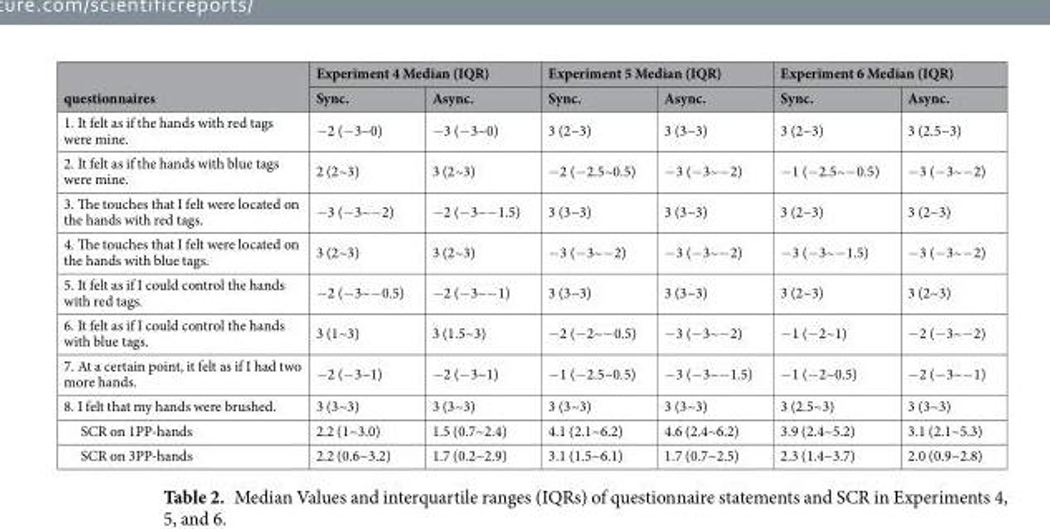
<table><thead><tr><td rowspan="2">questionnaires</td><td colspan="2">Experiment 4 Median (IQR)</td><td colspan="2">Experiment 5 Median (IQR)</td><td colspan="2">Experiment 6 Median (IQR)</td></tr><tr><td>Sync.</td><td>Async.</td><td>Sync.</td><td>Async.</td><td>Sync.</td><td>Async.</td></tr></thead><tbody><tr><td>1. It felt as if the hands with red tags were mine.</td><td>−2 (−3~0)</td><td>−3 (−3~0)</td><td>3 (2~3)</td><td>3 (3~3)</td><td>3 (2~3)</td><td>3 (2.5~3)</td></tr><tr><td>2. It felt as if the hands with blue tags were mine.</td><td>2 (2~3)</td><td>3 (2~3)</td><td>−2 (−2.5~0.5)</td><td>−3 (−3~−2)</td><td>−1 (−2.5~−0.5)</td><td>−3 (−3~−2)</td></tr><tr><td>3. The touches that I felt were located on the hands with red tags.</td><td>−3 (−3~−2)</td><td>−2 (−3~−1.5)</td><td>3 (3~3)</td><td>3 (3~3)</td><td>3 (2~3)</td><td>3 (2~3)</td></tr><tr><td>4. The touches that I felt were located on the hands with blue tags.</td><td>3 (2~3)</td><td>3 (2~3)</td><td>−3 (−3~−2)</td><td>−3 (−3~−2)</td><td>−3 (−3~−1.5)</td><td>−3 (−3~−2)</td></tr><tr><td>5. It felt as if I could control the hands with red tags.</td><td>−2 (−3~−0.5)</td><td>−2 (−3~−1)</td><td>3 (3~3)</td><td>3 (3~3)</td><td>3 (2~3)</td><td>3 (2~3)</td></tr><tr><td>6. It felt as if I could control the hands with blue tags.</td><td>3 (1~3)</td><td>3 (1.5~3)</td><td>−2 (−2~−0.5)</td><td>−3 (−3~−2)</td><td>−1 (−2~1)</td><td>−2 (−3~−2)</td></tr><tr><td>7. At a certain point, it felt as if I had two more hands.</td><td>−2 (−3~1)</td><td>−2 (−3~1)</td><td>−1 (−2.5~0.5)</td><td>−3 (−3~−1.5)</td><td>−1 (−2~0.5)</td><td>−2 (−3~−1)</td></tr><tr><td>8. I felt that my hands were brushed.</td><td>3 (3~3)</td><td>3 (3~3)</td><td>3 (3~3)</td><td>3 (3~3)</td><td>3 (2.5~3)</td><td>3 (3~3)</td></tr><tr><td>SCR on 1PP-hands</td><td>2.2 (1~3.0)</td><td>1.5 (0.7~2.4)</td><td>4.1 (2.1~6.2)</td><td>4.6 (2.4~6.2)</td><td>3.9 (2.4~5.2)</td><td>3.1 (2.1~5.3)</td></tr><tr><td>SCR on 3PP-hands</td><td>2.2 (0.6~3.2)</td><td>1.7 (0.2~2.9)</td><td>3.1 (1.5~6.1)</td><td>1.7 (0.7~2.5)</td><td>2.3 (1.4~3.7)</td><td>2.0 (0.9~2.8)</td></tr></tbody></table>